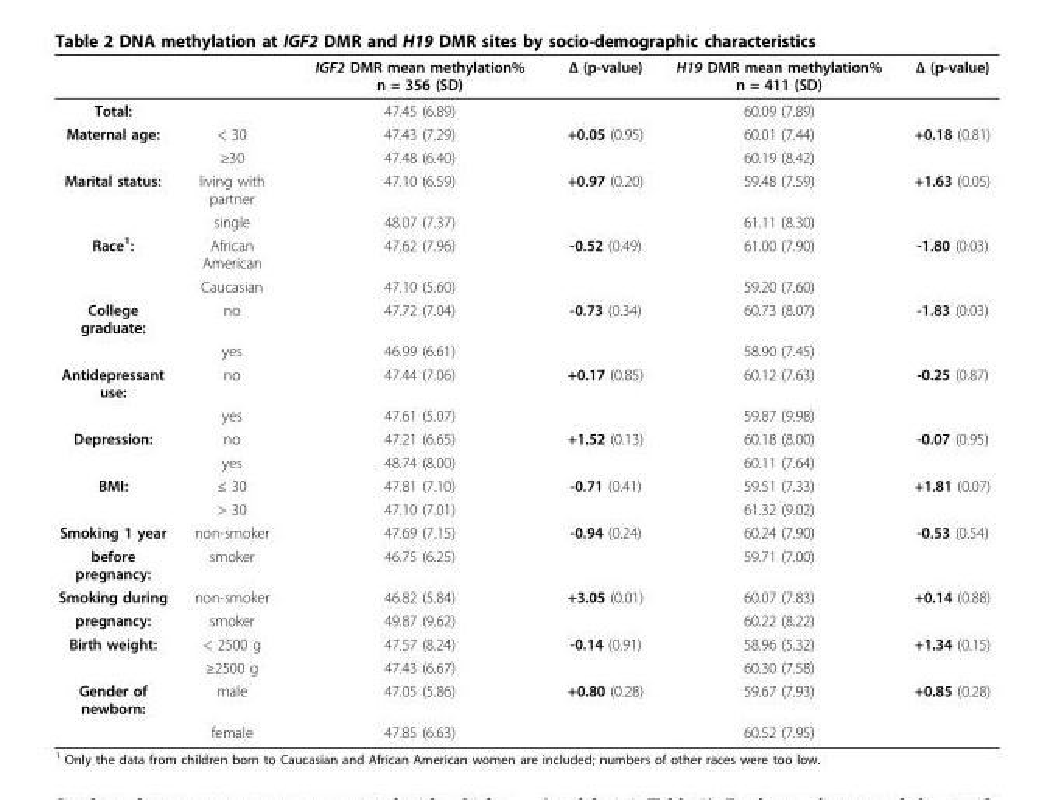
<table><thead><tr><td></td><td></td><td>IGF2 DMR mean methylation% n = 356 (SD)</td><td>Δ (p-value)</td><td>H19 DMR mean methylation% n = 411 (SD)</td><td>Δ (p-value)</td></tr></thead><tbody><tr><td>Total:</td><td></td><td>47.45 (6.89)</td><td></td><td>60.09 (7.89)</td><td></td></tr><tr><td rowspan="2">Maternal age:</td><td>&lt; 30</td><td>47.43 (7.29)</td><td>+0.05 (0.95)</td><td>60.01 (7.44)</td><td>+0.18 (0.81)</td></tr><tr><td>≥30</td><td>47.48 (6.40)</td><td></td><td>60.19 (8.42)</td><td></td></tr><tr><td rowspan="2">Marital status:</td><td>living with partner</td><td>47.10 (6.59)</td><td>+0.97 (0.20)</td><td>59.48 (7.59)</td><td>+1.63 (0.05)</td></tr><tr><td>single</td><td>48.07 (7.37)</td><td></td><td>61.11 (8.30)</td><td></td></tr><tr><td rowspan="2">Race<sup>1</sup>:</td><td>African American</td><td>47.62 (7.96)</td><td>-0.52 (0.49)</td><td>61.00 (7.90)</td><td>-1.80 (0.03)</td></tr><tr><td>Caucasian</td><td>47.10 (5.60)</td><td></td><td>59.20 (7.60)</td><td></td></tr><tr><td rowspan="2">College graduate:</td><td>no</td><td>47.72 (7.04)</td><td>-0.73 (0.34)</td><td>60.73 (8.07)</td><td>-1.83 (0.03)</td></tr><tr><td>yes</td><td>46.99 (6.61)</td><td></td><td>58.90 (7.45)</td><td></td></tr><tr><td rowspan="2">Antidepressant use:</td><td>no</td><td>47.44 (7.06)</td><td>+0.17 (0.85)</td><td>60.12 (7.63)</td><td>-0.25 (0.87)</td></tr><tr><td>yes</td><td>47.61 (5.07)</td><td></td><td>59.87 (9.98)</td><td></td></tr><tr><td rowspan="2">Depression:</td><td>no</td><td>47.21 (6.65)</td><td>+1.52 (0.13)</td><td>60.18 (8.00)</td><td>-0.07 (0.95)</td></tr><tr><td>yes</td><td>48.74 (8.00)</td><td></td><td>60.11 (7.64)</td><td></td></tr><tr><td rowspan="2">BMI:</td><td>≤ 30</td><td>47.81 (7.10)</td><td>-0.71 (0.41)</td><td>59.51 (7.33)</td><td>+1.81 (0.07)</td></tr><tr><td>&gt; 30</td><td>47.10 (7.01)</td><td></td><td>61.32 (9.02)</td><td></td></tr><tr><td>Smoking 1 year</td><td>non-smoker</td><td>47.69 (7.15)</td><td>-0.94 (0.24)</td><td>60.24 (7.90)</td><td>-0.53 (0.54)</td></tr><tr><td>before pregnancy:</td><td>smoker</td><td>46.75 (6.25)</td><td></td><td>59.71 (7.00)</td><td></td></tr><tr><td>Smoking during</td><td>non-smoker</td><td>46.82 (5.84)</td><td>+3.05 (0.01)</td><td>60.07 (7.83)</td><td>+0.14 (0.88)</td></tr><tr><td>pregnancy:</td><td>smoker</td><td>49.87 (9.62)</td><td></td><td>60.22 (8.22)</td><td></td></tr><tr><td rowspan="2">Birth weight:</td><td>&lt; 2500 g</td><td>47.57 (8.24)</td><td>-0.14 (0.91)</td><td>58.96 (5.32)</td><td>+1.34 (0.15)</td></tr><tr><td>≥2500 g</td><td>47.43 (6.67)</td><td></td><td>60.30 (7.58)</td><td></td></tr><tr><td rowspan="2">Gender of newborn:</td><td>male</td><td>47.05 (5.86)</td><td>+0.80 (0.28)</td><td>59.67 (7.93)</td><td>+0.85 (0.28)</td></tr><tr><td>female</td><td>47.85 (6.63)</td><td></td><td>60.52 (7.95)</td><td></td></tr></tbody></table>